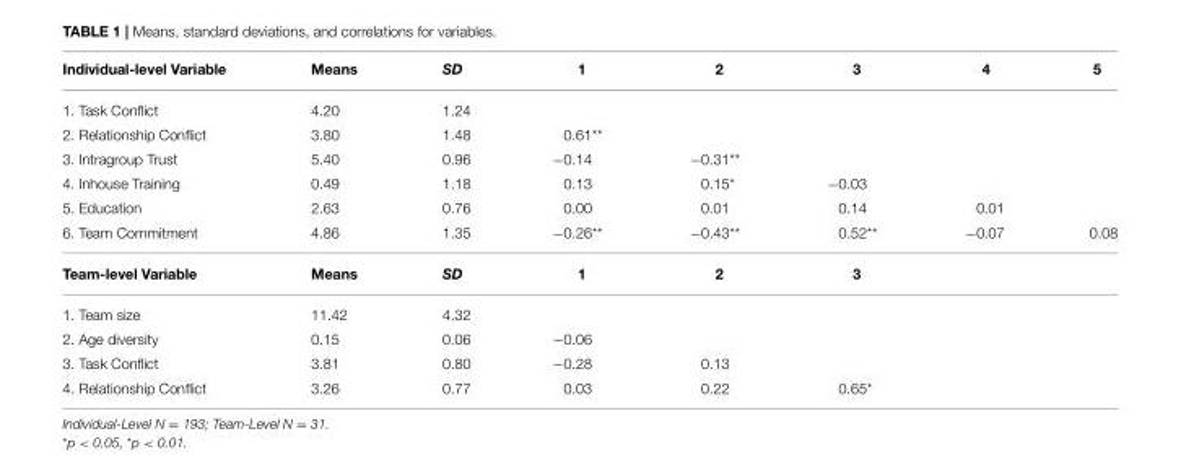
<table><thead><tr><td>Individual-level Variable</td><td>Means</td><td>SD</td><td>1</td><td>2</td><td>3</td><td>4</td><td>5</td></tr></thead><tbody><tr><td>1. Task Conflict</td><td>4.20</td><td>1.24</td><td></td><td></td><td></td><td></td><td></td></tr><tr><td>2. Relationship Conflict</td><td>3.80</td><td>1.48</td><td>0.61**</td><td></td><td></td><td></td><td></td></tr><tr><td>3. Intragroup Trust</td><td>5.40</td><td>0.96</td><td>−0.14</td><td>−0.31**</td><td></td><td></td><td></td></tr><tr><td>4. Inhouse Training</td><td>0.49</td><td>1.18</td><td>0.13</td><td>0.15*</td><td>−0.03</td><td></td><td></td></tr><tr><td>5. Education</td><td>2.63</td><td>0.76</td><td>0.00</td><td>0.01</td><td>0.14</td><td>0.01</td><td></td></tr><tr><td>6. Team Commitment</td><td>4.86</td><td>1.35</td><td>−0.26**</td><td>−0.43**</td><td>0.52**</td><td>−0.07</td><td>0.08</td></tr><tr><td>Team-level Variable</td><td>Means</td><td>SD</td><td>1</td><td>2</td><td>3</td><td></td><td></td></tr><tr><td>1. Team size</td><td>11.42</td><td>4.32</td><td></td><td></td><td></td><td></td><td></td></tr><tr><td>2. Age diversity</td><td>0.15</td><td>0.06</td><td>−0.06</td><td></td><td></td><td></td><td></td></tr><tr><td>3. Task Conflict</td><td>3.81</td><td>0.80</td><td>−0.28</td><td>0.13</td><td></td><td></td><td></td></tr><tr><td>4. Relationship Conflict</td><td>3.26</td><td>0.77</td><td>0.03</td><td>0.22</td><td>0.65*</td><td></td><td></td></tr></tbody></table>